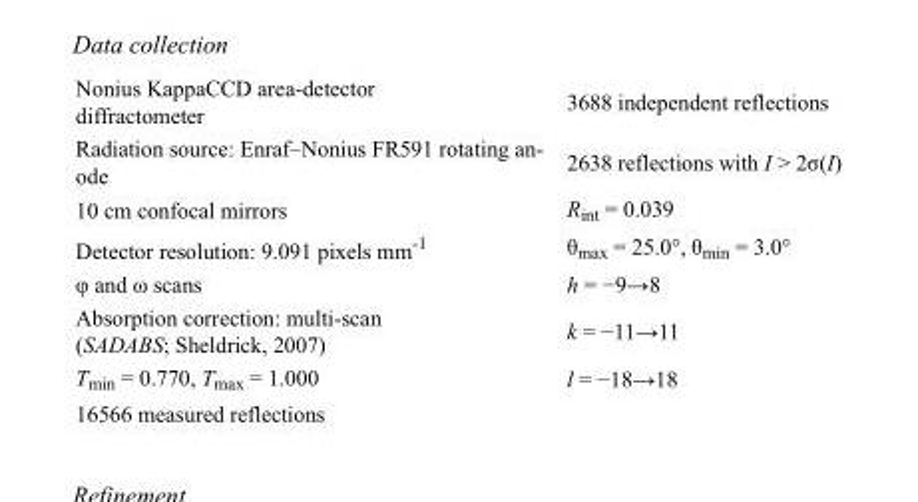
<table><tbody><tr><td>Nonius KappaCCD area-detector diffractometer</td><td>3688 independent reflections</td></tr><tr><td>Radiation source: Enraf–Nonius FR591 rotating an- ode</td><td>2638 reflections with I &gt; 2σ(I)</td></tr><tr><td>10 cm confocal mirrors</td><td>R<sub>int</sub> = 0.039</td></tr><tr><td>Detector resolution: 9.091 pixels mm<sup>-1</sup></td><td>θ<sub>max</sub> = 25.0°, θ<sub>min</sub> = 3.0°</td></tr><tr><td>φ and ω scans</td><td>h = −9→8</td></tr><tr><td>Absorption correction: multi-scan (SADABS; Sheldrick, 2007)</td><td>k = −11→11</td></tr><tr><td>T<sub>min</sub> = 0.770, T<sub>max</sub> = 1.000</td><td>l = −18→18</td></tr><tr><td>16566 measured reflections</td><td></td></tr></tbody></table>